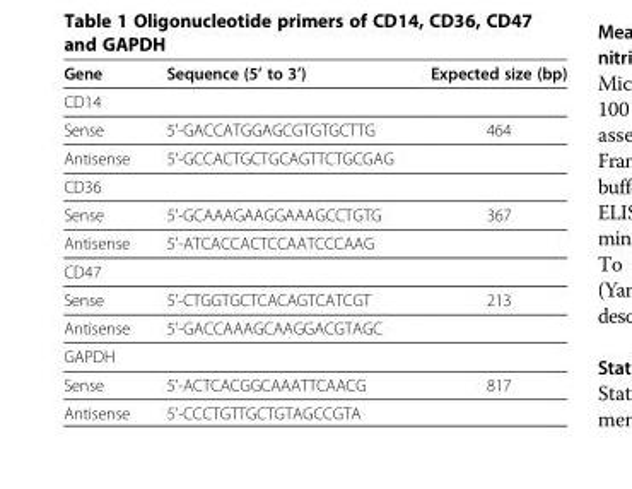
<table><thead><tr><td>Gene</td><td>Sequence (5’ to 3’)</td><td>Expected size (bp)</td></tr></thead><tbody><tr><td colspan="3">CD14</td></tr><tr><td>Sense</td><td>5’-GACCATGGAGCGTGTGCTTG</td><td>464</td></tr><tr><td>Antisense</td><td>5’-GCCACTGCTGCAGTTCTGCGAG</td><td></td></tr><tr><td colspan="3">CD36</td></tr><tr><td>Sense</td><td>5’-GCAAAGAAGGAAAGCCTGTG</td><td>367</td></tr><tr><td>Antisense</td><td>5’-ATCACCACTCCAATCCCAAG</td><td></td></tr><tr><td colspan="3">CD47</td></tr><tr><td>Sense</td><td>5’-CTGGTGCTCACAGTCATCGT</td><td>213</td></tr><tr><td>Antisense</td><td>5’-GACCAAAGCAAGGACGTAGC</td><td></td></tr><tr><td colspan="3">GAPDH</td></tr><tr><td>Sense</td><td>5’-ACTCACGGCAAATTCAACG</td><td>817</td></tr><tr><td>Antisense</td><td>5’-CCCTGTTGCTGTAGCCGTA</td><td></td></tr></tbody></table>